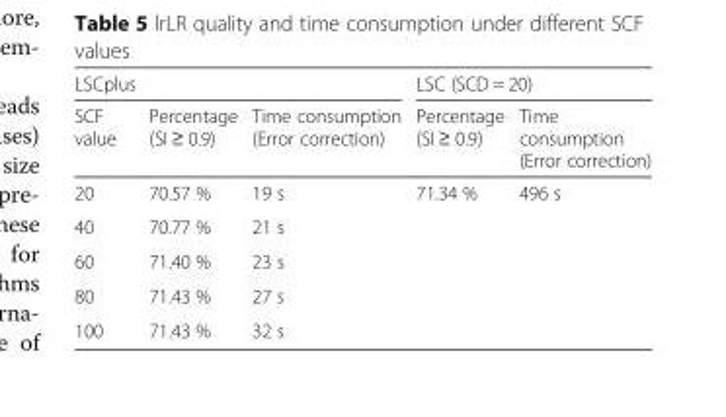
<table><thead><tr><td colspan="3">LSCplus</td><td colspan="2">LSC (SCD = 20)</td></tr><tr><td>SCF value</td><td>Percentage (SI ≥ 0.9)</td><td>Time consumption (Error correction)</td><td>Percentage (SI ≥ 0.9)</td><td>Time consumption (Error correction)</td></tr></thead><tbody><tr><td>20</td><td>70.57 %</td><td>19 s</td><td rowspan="5">71.34 %</td><td rowspan="5">496 s</td></tr><tr><td>40</td><td>70.77 %</td><td>21 s</td></tr><tr><td>60</td><td>71.40 %</td><td>23 s</td></tr><tr><td>80</td><td>71.43 %</td><td>27 s</td></tr><tr><td>100</td><td>71.43 %</td><td>32 s</td></tr></tbody></table>